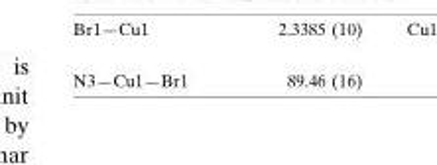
<table><tbody><tr><td>N3—Cu1—Br1</td><td>89.46 (16)</td></tr></tbody></table>